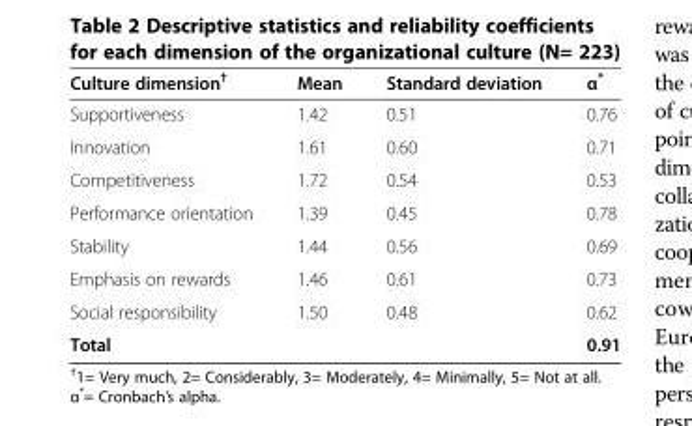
<table><thead><tr><td>Culture dimension<sup>†</sup></td><td>Mean</td><td>Standard deviation</td><td>α*</td></tr></thead><tbody><tr><td>Supportiveness</td><td>1.42</td><td>0.51</td><td>0.76</td></tr><tr><td>Innovation</td><td>1.61</td><td>0.60</td><td>0.71</td></tr><tr><td>Competitiveness</td><td>1.72</td><td>0.54</td><td>0.53</td></tr><tr><td>Performance orientation</td><td>1.39</td><td>0.45</td><td>0.78</td></tr><tr><td>Stability</td><td>1.44</td><td>0.56</td><td>0.69</td></tr><tr><td>Emphasis on rewards</td><td>1.46</td><td>0.61</td><td>0.73</td></tr><tr><td>Social responsibility</td><td>1.50</td><td>0.48</td><td>0.62</td></tr><tr><td>Total</td><td></td><td></td><td>0.91</td></tr></tbody></table>